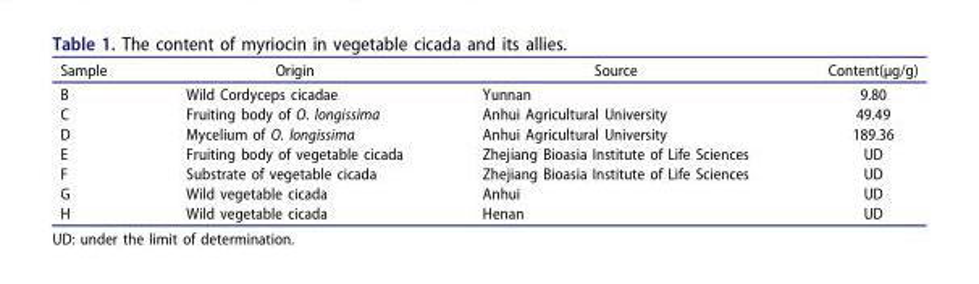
<table><thead><tr><td>Sample</td><td>Origin</td><td>Source</td><td>Content(μg/g)</td></tr></thead><tbody><tr><td>B</td><td>Wild Cordyceps cicadae</td><td>Yunnan</td><td>9.80</td></tr><tr><td>C</td><td>Fruiting body of O. longissima</td><td>Anhui Agricultural University</td><td>49.49</td></tr><tr><td>D</td><td>Mycelium of O. longissima</td><td>Anhui Agricultural University</td><td>189.36</td></tr><tr><td>E</td><td>Fruiting body of vegetable cicada</td><td>Zhejiang Bioasia Institute of Life Sciences</td><td>UD</td></tr><tr><td>F</td><td>Substrate of vegetable cicada</td><td>Zhejiang Bioasia Institute of Life Sciences</td><td>UD</td></tr><tr><td>G</td><td>Wild vegetable cicada</td><td>Anhui</td><td>UD</td></tr><tr><td>H</td><td>Wild vegetable cicada</td><td>Henan</td><td>UD</td></tr></tbody></table>